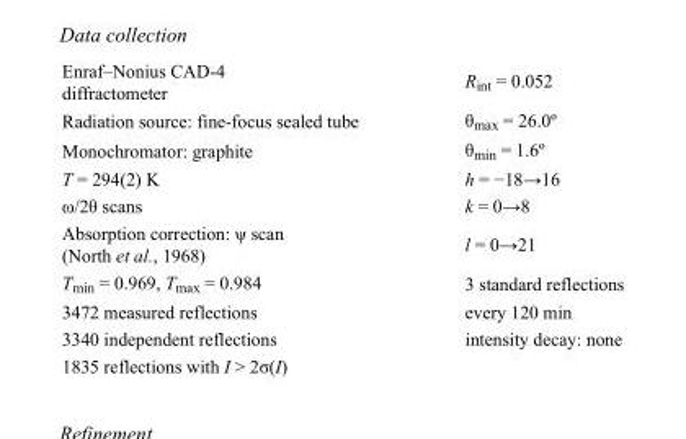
<table><tbody><tr><td>Enraf–Nonius CAD-4 diffractometer</td><td>R<sub>int</sub> = 0.052</td></tr><tr><td>Radiation source: fine-focus sealed tube</td><td>θ<sub>max</sub> = 26.0º</td></tr><tr><td>Monochromator: graphite</td><td>θ<sub>min</sub> = 1.6º</td></tr><tr><td>T = 294(2) K</td><td>h = −18→16</td></tr><tr><td>ω/2θ scans</td><td>k = 0→8</td></tr><tr><td>Absorption correction: ψ scan (North et al., 1968)</td><td>l = 0→21</td></tr><tr><td>T<sub>min</sub> = 0.969, T<sub>max</sub> = 0.984</td><td>3 standard reflections</td></tr><tr><td>3472 measured reflections</td><td>every 120 min</td></tr><tr><td>3340 independent reflections</td><td>intensity decay: none</td></tr><tr><td>1835 reflections with I &gt; 2σ(I)</td><td></td></tr></tbody></table>